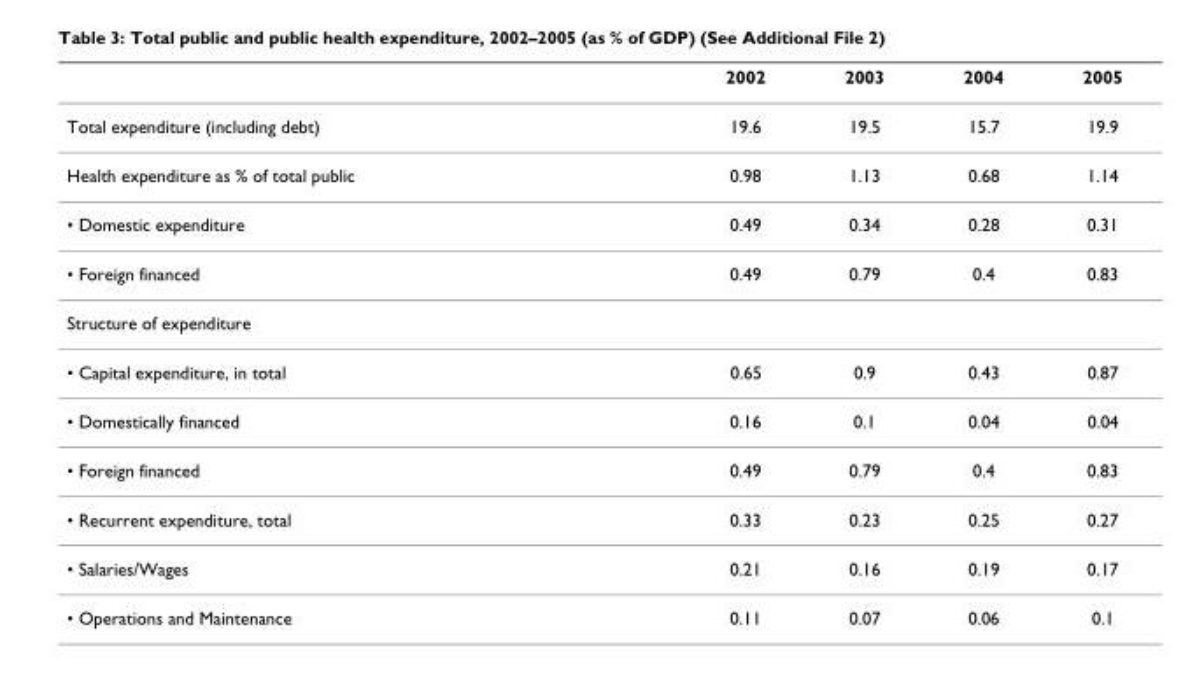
<table><thead><tr><td></td><td>2002</td><td>2003</td><td>2004</td><td>2005</td></tr></thead><tbody><tr><td>Total expenditure (including debt)</td><td>19.6</td><td>19.5</td><td>15.7</td><td>19.9</td></tr><tr><td>Health expenditure as % of total public</td><td>0.98</td><td>1.13</td><td>0.68</td><td>1.14</td></tr><tr><td>• Domestic expenditure</td><td>0.49</td><td>0.34</td><td>0.28</td><td>0.31</td></tr><tr><td>• Foreign financed</td><td>0.49</td><td>0.79</td><td>0.4</td><td>0.83</td></tr><tr><td colspan="5">Structure of expenditure</td></tr><tr><td>• Capital expenditure, in total</td><td>0.65</td><td>0.9</td><td>0.43</td><td>0.87</td></tr><tr><td>• Domestically financed</td><td>0.16</td><td>0.1</td><td>0.04</td><td>0.04</td></tr><tr><td>• Foreign financed</td><td>0.49</td><td>0.79</td><td>0.4</td><td>0.83</td></tr><tr><td>• Recurrent expenditure, total</td><td>0.33</td><td>0.23</td><td>0.25</td><td>0.27</td></tr><tr><td>• Salaries/Wages</td><td>0.21</td><td>0.16</td><td>0.19</td><td>0.17</td></tr><tr><td>• Operations and Maintenance</td><td>0.11</td><td>0.07</td><td>0.06</td><td>0.1</td></tr></tbody></table>